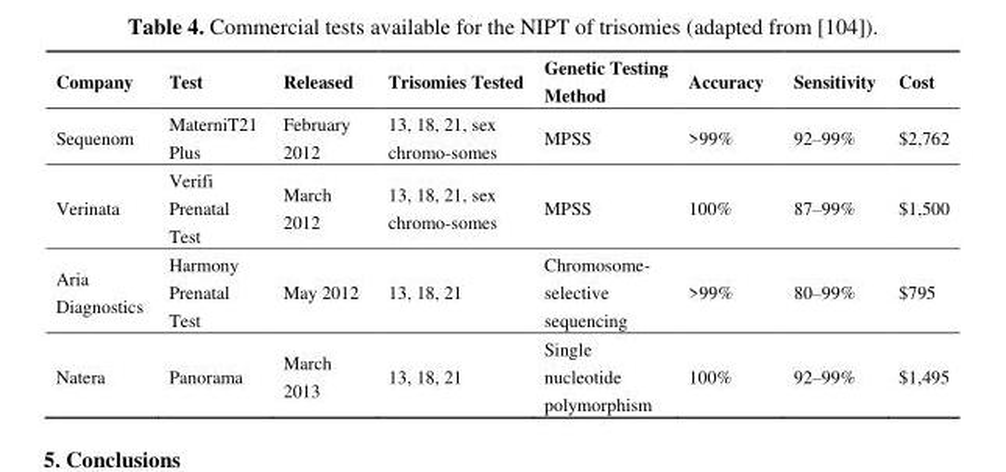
<table><thead><tr><td>Company</td><td>Test</td><td>Released</td><td>Trisomies Tested</td><td>Genetic Testing Method</td><td>Accuracy</td><td>Sensitivity</td><td>Cost</td></tr></thead><tbody><tr><td>Sequenom</td><td>MaterniT21 Plus</td><td>February 2012</td><td>13, 18, 21, sex chromo-somes</td><td>MPSS</td><td>&gt;99%</td><td>92–99%</td><td>$2,762</td></tr><tr><td>Verinata</td><td>Verifi Prenatal Test</td><td>March 2012</td><td>13, 18, 21, sex chromo-somes</td><td>MPSS</td><td>100%</td><td>87–99%</td><td>$1,500</td></tr><tr><td>Aria Diagnostics</td><td>Harmony Prenatal Test</td><td>May 2012</td><td>13, 18, 21</td><td>Chromosome- selective sequencing</td><td>&gt;99%</td><td>80–99%</td><td>$795</td></tr><tr><td>Natera</td><td>Panorama</td><td>March 2013</td><td>13, 18, 21</td><td>Single nucleotide polymorphism</td><td>100%</td><td>92–99%</td><td>$1,495</td></tr></tbody></table>